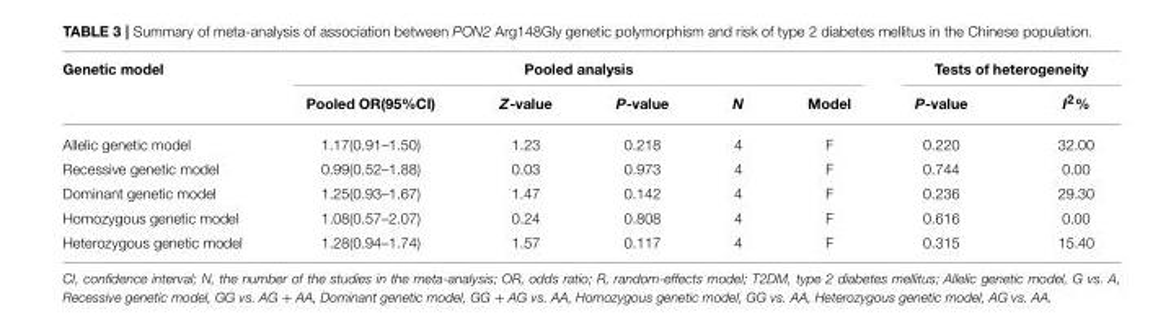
<table><thead><tr><td rowspan="2">Genetic model</td><td colspan="5">Pooled analysis</td><td colspan="2">Tests of heterogeneity</td></tr><tr><td>Pooled OR(95%CI)</td><td>Z-value</td><td>P-value</td><td>N</td><td>Model</td><td>P-value</td><td>I<sup>2</sup>%</td></tr></thead><tbody><tr><td>Allelic genetic model</td><td>1.17(0.91–1.50)</td><td>1.23</td><td>0.218</td><td>4</td><td>F</td><td>0.220</td><td>32.00</td></tr><tr><td>Recessive genetic model</td><td>0.99(0.52–1.88)</td><td>0.03</td><td>0.973</td><td>4</td><td>F</td><td>0.744</td><td>0.00</td></tr><tr><td>Dominant genetic model</td><td>1.25(0.93–1.67)</td><td>1.47</td><td>0.142</td><td>4</td><td>F</td><td>0.236</td><td>29.30</td></tr><tr><td>Homozygous genetic model</td><td>1.08(0.57–2.07)</td><td>0.24</td><td>0.808</td><td>4</td><td>F</td><td>0.616</td><td>0.00</td></tr><tr><td>Heterozygous genetic model</td><td>1.28(0.94–1.74)</td><td>1.57</td><td>0.117</td><td>4</td><td>F</td><td>0.315</td><td>15.40</td></tr></tbody></table>